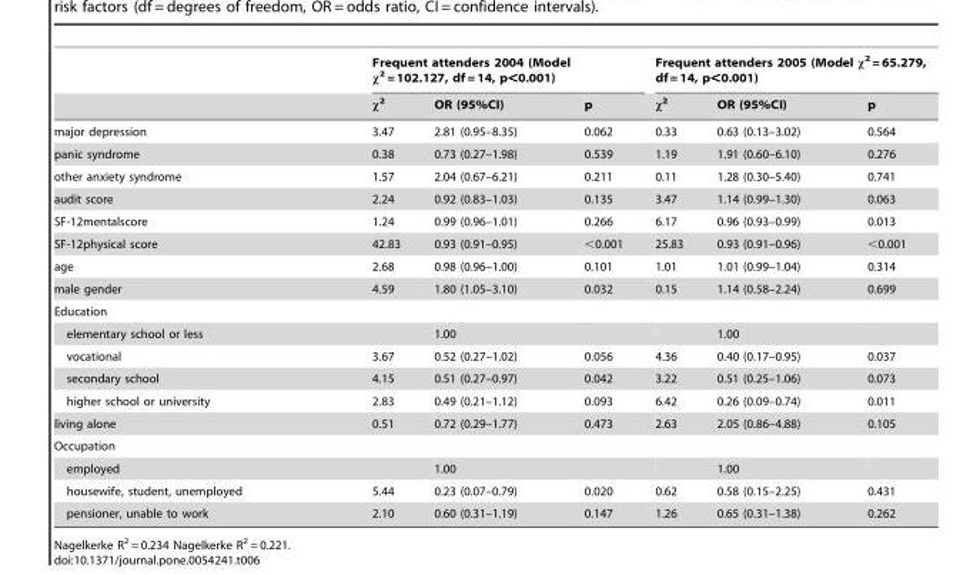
<table><thead><tr><td rowspan="2"></td><td colspan="3">Frequent attenders 2004 (Model χ<sup>2</sup> = 102.127, df = 14, p&lt;0.001)</td><td colspan="3">Frequent attenders 2005 (Model χ<sup>2</sup> = 65.279, df = 14, p&lt;0.001)</td></tr><tr><td>x2</td><td>OR (95%CI)</td><td>p</td><td>x2</td><td>OR (95%CI)</td><td>p</td></tr></thead><tbody><tr><td>major depression</td><td>3.47</td><td>2.81 (0.95–8.35)</td><td>0.062</td><td>0.33</td><td>0.63 (0.13–3.02)</td><td>0.564</td></tr><tr><td>panic syndrome</td><td>0.38</td><td>0.73 (0.27–1.98)</td><td>0.539</td><td>1.19</td><td>1.91 (0.60–6.10)</td><td>0.276</td></tr><tr><td>other anxiety syndrome</td><td>1.57</td><td>2.04 (0.67–6.21)</td><td>0.211</td><td>0.11</td><td>1.28 (0.30–5.40)</td><td>0.741</td></tr><tr><td>audit score</td><td>2.24</td><td>0.92 (0.83–1.03)</td><td>0.135</td><td>3.47</td><td>1.14 (0.99–1.30)</td><td>0.063</td></tr><tr><td>SF-12mentalscore</td><td>1.24</td><td>0.99 (0.96–1.01)</td><td>0.266</td><td>6.17</td><td>0.96 (0.93–0.99)</td><td>0.013</td></tr><tr><td>SF-12physical score</td><td>42.83</td><td>0.93 (0.91–0.95)</td><td>&lt;0.001</td><td>25.83</td><td>0.93 (0.91–0.96)</td><td>&lt;0.001</td></tr><tr><td>age</td><td>2.68</td><td>0.98 (0.96–1.00)</td><td>0.101</td><td>1.01</td><td>1.01 (0.99–1.04)</td><td>0.314</td></tr><tr><td>male gender</td><td>4.59</td><td>1.80 (1.05–3.10)</td><td>0.032</td><td>0.15</td><td>1.14 (0.58–2.24)</td><td>0.699</td></tr><tr><td colspan="7">Education</td></tr><tr><td>elementary school or less</td><td></td><td>1.00</td><td></td><td></td><td>1.00</td><td></td></tr><tr><td>vocational</td><td>3.67</td><td>0.52 (0.27–1.02)</td><td>0.056</td><td>4.36</td><td>0.40 (0.17–0.95)</td><td>0.037</td></tr><tr><td>secondary school</td><td>4.15</td><td>0.51 (0.27–0.97)</td><td>0.042</td><td>3.22</td><td>0.51 (0.25–1.06)</td><td>0.073</td></tr><tr><td>higher school or university</td><td>2.83</td><td>0.49 (0.21–1.12)</td><td>0.093</td><td>6.42</td><td>0.26 (0.09–0.74)</td><td>0.011</td></tr><tr><td>living alone</td><td>0.51</td><td>0.72 (0.29–1.77)</td><td>0.473</td><td>2.63</td><td>2.05 (0.86–4.88)</td><td>0.105</td></tr><tr><td colspan="7">Occupation</td></tr><tr><td>employed</td><td></td><td>1.00</td><td></td><td></td><td>1.00</td><td></td></tr><tr><td>housewife, student, unemployed</td><td>5.44</td><td>0.23 (0.07–0.79)</td><td>0.020</td><td>0.62</td><td>0.58 (0.15–2.25)</td><td>0.431</td></tr><tr><td>pensioner, unable to work</td><td>2.10</td><td>0.60 (0.31–1.19)</td><td>0.147</td><td>1.26</td><td>0.65 (0.31–1.38)</td><td>0.262</td></tr></tbody></table>